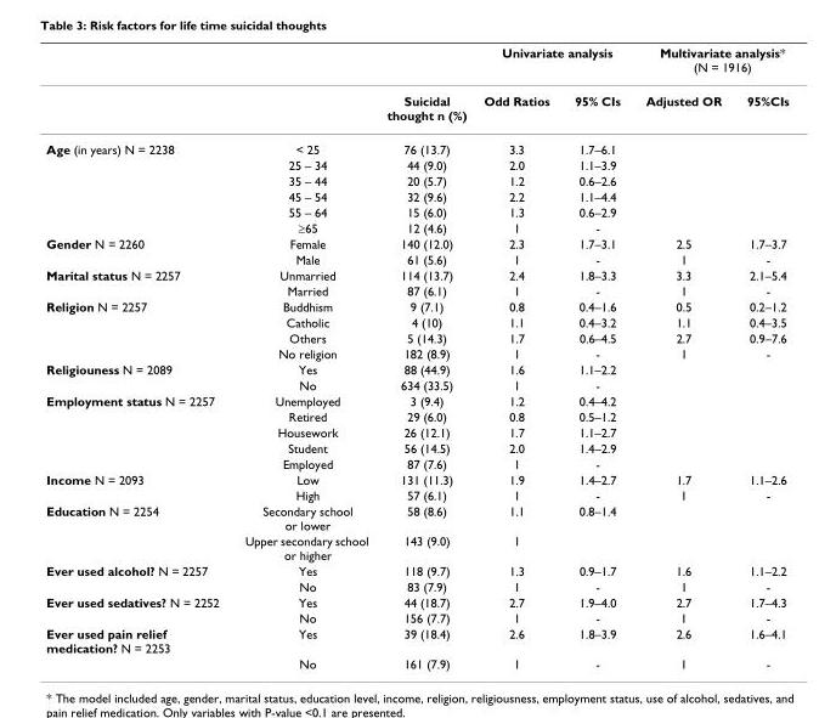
<table><thead><tr><td rowspan="2"></td><td rowspan="2"></td><td rowspan="2">Suicidal thought n (%)</td><td colspan="2">Univariate analysis</td><td colspan="2">Multivariate analysis* (N = 1916)</td></tr><tr><td>Odd Ratios</td><td>95% CIs</td><td>Adjusted OR</td><td>95%CIs</td></tr></thead><tbody><tr><td rowspan="6">Age (in years) N = 2238</td><td>&lt; 25</td><td>76 (13.7)</td><td>3.3</td><td>1.7–6.1</td><td></td><td></td></tr><tr><td>25 – 34</td><td>44 (9.0)</td><td>2.0</td><td>1.1–3.9</td><td></td><td></td></tr><tr><td>35 – 44</td><td>20 (5.7)</td><td>1.2</td><td>0.6–2.6</td><td></td><td></td></tr><tr><td>45 – 54</td><td>32 (9.6)</td><td>2.2</td><td>1.1–4.4</td><td></td><td></td></tr><tr><td>55 – 64</td><td>15 (6.0)</td><td>1.3</td><td>0.6–2.9</td><td></td><td></td></tr><tr><td>≥65</td><td>12 (4.6)</td><td>1</td><td>-</td><td></td><td></td></tr><tr><td rowspan="2">Gender N = 2260</td><td>Female</td><td>140 (12.0)</td><td>2.3</td><td>1.7–3.1</td><td>2.5</td><td>1.7–3.7</td></tr><tr><td>Male</td><td>61 (5.6)</td><td>1</td><td>-</td><td>1</td><td>-</td></tr><tr><td rowspan="2">Marital status N = 2257</td><td>Unmarried</td><td>114 (13.7)</td><td>2.4</td><td>1.8–3.3</td><td>3.3</td><td>2.1–5.4</td></tr><tr><td>Married</td><td>87 (6.1)</td><td>1</td><td>-</td><td>1</td><td>-</td></tr><tr><td rowspan="4">Religion N = 2257</td><td>Buddhism</td><td>9 (7.1)</td><td>0.8</td><td>0.4–1.6</td><td>0.5</td><td>0.2–1.2</td></tr><tr><td>Catholic</td><td>4 (10)</td><td>1.1</td><td>0.4–3.2</td><td>1.1</td><td>0.4–3.5</td></tr><tr><td>Others</td><td>5 (14.3)</td><td>1.7</td><td>0.6–4.5</td><td>2.7</td><td>0.9–7.6</td></tr><tr><td>No religion</td><td>182 (8.9)</td><td>1</td><td>-</td><td>1</td><td>-</td></tr><tr><td rowspan="2">Religiouness N = 2089</td><td>Yes</td><td>88 (44.9)</td><td>1.6</td><td>1.1–2.2</td><td></td><td></td></tr><tr><td>No</td><td>634 (33.5)</td><td>1</td><td>-</td><td></td><td></td></tr><tr><td rowspan="5">Employment status N = 2257</td><td>Unemployed</td><td>3 (9.4)</td><td>1.2</td><td>0.4–4.2</td><td></td><td></td></tr><tr><td>Retired</td><td>29 (6.0)</td><td>0.8</td><td>0.5–1.2</td><td></td><td></td></tr><tr><td>Housework</td><td>26 (12.1)</td><td>1.7</td><td>1.1–2.7</td><td></td><td></td></tr><tr><td>Student</td><td>56 (14.5)</td><td>2.0</td><td>1.4–2.9</td><td></td><td></td></tr><tr><td>Employed</td><td>87 (7.6)</td><td>1</td><td>-</td><td></td><td></td></tr><tr><td rowspan="2">Income N = 2093</td><td>Low</td><td>131 (11.3)</td><td>1.9</td><td>1.4–2.7</td><td>1.7</td><td>1.1–2.6</td></tr><tr><td>High</td><td>57 (6.1)</td><td>1</td><td>-</td><td>1</td><td>-</td></tr><tr><td rowspan="2">Education N = 2254</td><td>Secondary school or lower</td><td>58 (8.6)</td><td>1.1</td><td>0.8–1.4</td><td></td><td></td></tr><tr><td>Upper secondary school or higher</td><td>143 (9.0)</td><td>1</td><td></td><td></td><td></td></tr><tr><td rowspan="2">Ever used alcohol? N = 2257</td><td>Yes</td><td>118 (9.7)</td><td>1.3</td><td>0.9–1.7</td><td>1.6</td><td>1.1–2.2</td></tr><tr><td>No</td><td>83 (7.9)</td><td>1</td><td>-</td><td>1</td><td>-</td></tr><tr><td rowspan="2">Ever used sedatives? N = 2252</td><td>Yes</td><td>44 (18.7)</td><td>2.7</td><td>1.9–4.0</td><td>2.7</td><td>1.7–4.3</td></tr><tr><td>No</td><td>156 (7.7)</td><td>1</td><td>-</td><td>1</td><td>-</td></tr><tr><td rowspan="2">Ever used pain relief medication? N = 2253</td><td>Yes</td><td>39 (18.4)</td><td>2.6</td><td>1.8–3.9</td><td>2.6</td><td>1.6–4.1</td></tr><tr><td>No</td><td>161 (7.9)</td><td>1</td><td>-</td><td>1</td><td>-</td></tr></tbody></table>